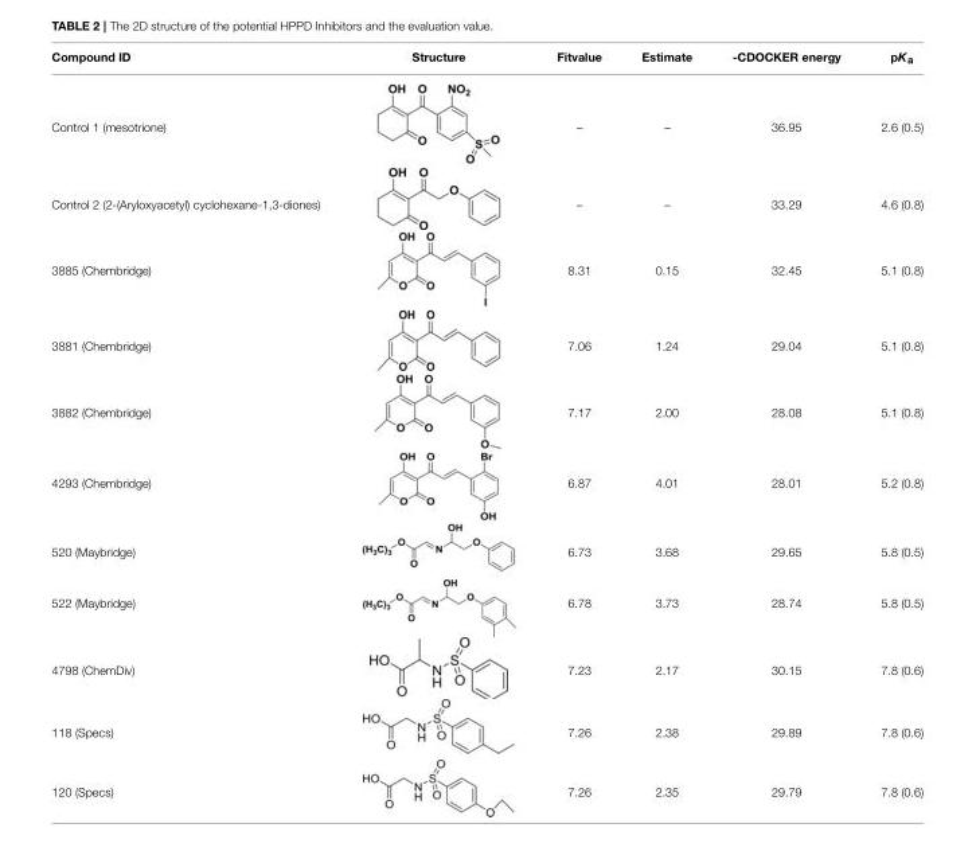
<table><thead><tr><td>Compound ID</td><td>Structure</td><td>Fitvalue</td><td>Estimate</td><td>-CDOCKER energy</td><td>pK<sub>a</sub></td></tr></thead><tbody><tr><td>Control 1 (mesotrione)</td><td></td><td>–</td><td>–</td><td>36.95</td><td>2.6 (0.5)</td></tr><tr><td>Control 2 (2-(Aryloxyacetyl) cyclohexane-1,3-diones)</td><td></td><td>–</td><td>–</td><td>33.29</td><td>4.6 (0.8)</td></tr><tr><td>3885 (Chembridge)</td><td></td><td>8.31</td><td>0.15</td><td>32.45</td><td>5.1 (0.8)</td></tr><tr><td>3881 (Chembridge)</td><td></td><td>7.06</td><td>1.24</td><td>29.04</td><td>5.1 (0.8)</td></tr><tr><td>3882 (Chembridge)</td><td></td><td>7.17</td><td>2.00</td><td>28.08</td><td>5.1 (0.8)</td></tr><tr><td>4293 (Chembridge)</td><td></td><td>6.87</td><td>4.01</td><td>28.01</td><td>5.2 (0.8)</td></tr><tr><td>520 (Maybridge)</td><td></td><td>6.73</td><td>3.68</td><td>29.65</td><td>5.8 (0.5)</td></tr><tr><td>522 (Maybridge)</td><td></td><td>6.78</td><td>3.73</td><td>28.74</td><td>5.8 (0.5)</td></tr><tr><td>4798 (ChemDiv)</td><td></td><td>7.23</td><td>2.17</td><td>30.15</td><td>7.8 (0.6)</td></tr><tr><td>118 (Specs)</td><td></td><td>7.26</td><td>2.38</td><td>29.89</td><td>7.8 (0.6)</td></tr><tr><td>120 (Specs)</td><td></td><td>7.26</td><td>2.35</td><td>29.79</td><td>7.8 (0.6)</td></tr></tbody></table>